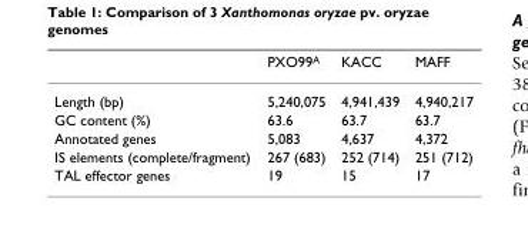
<table><thead><tr><td></td><td>PXO99<sup>A</sup></td><td>KACC</td><td>MAFF</td></tr></thead><tbody><tr><td>Length (bp)</td><td>5,240,075</td><td>4,941,439</td><td>4,940,217</td></tr><tr><td>GC content (%)</td><td>63.6</td><td>63.7</td><td>63.7</td></tr><tr><td>Annotated genes</td><td>5,083</td><td>4,637</td><td>4,372</td></tr><tr><td>IS elements (complete/fragment)</td><td>267 (683)</td><td>252 (714)</td><td>251 (712)</td></tr><tr><td>TAL effector genes</td><td>19</td><td>15</td><td>17</td></tr></tbody></table>